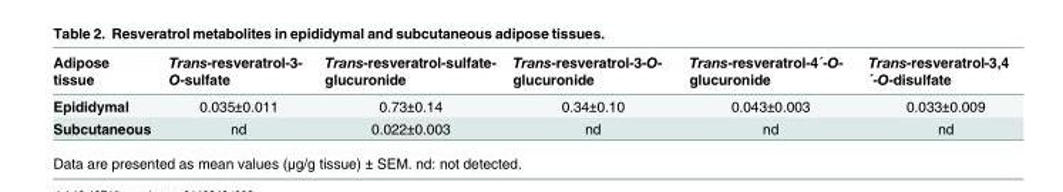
<table><thead><tr><td>Adipose tissue</td><td>Trans-resveratrol-3- O-sulfate</td><td>Trans-resveratrol-sulfate- glucuronide</td><td>Trans-resveratrol-3-O- glucuronide</td><td>Trans-resveratrol-4´-O- glucuronide</td><td>Trans-resveratrol-3,4 ´-O-disulfate</td></tr></thead><tbody><tr><td>Epididymal</td><td>0.035±0.011</td><td>0.73±0.14</td><td>0.34±0.10</td><td>0.043±0.003</td><td>0.033±0.009</td></tr><tr><td>Subcutaneous</td><td>nd</td><td>0.022±0.003</td><td>nd</td><td>nd</td><td>nd</td></tr></tbody></table>